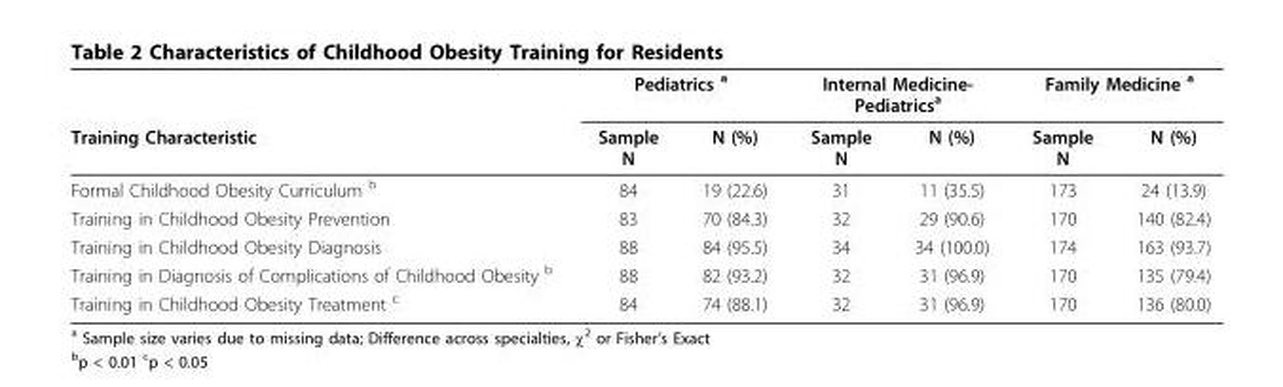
<table><thead><tr><td rowspan="2">Training Characteristic</td><td colspan="2">Pediatrics <sup>a</sup></td><td colspan="2">Internal Medicine- Pediatrics<sup>a</sup></td><td colspan="2">Family Medicine <sup>a</sup></td></tr><tr><td>Sample N</td><td>N (%)</td><td>Sample N</td><td>N (%)</td><td>Sample N</td><td>N (%)</td></tr></thead><tbody><tr><td>Formal Childhood Obesity Curriculum <sup>b</sup></td><td>84</td><td>19 (22.6)</td><td>31</td><td>11 (35.5)</td><td>173</td><td>24 (13.9)</td></tr><tr><td>Training in Childhood Obesity Prevention</td><td>83</td><td>70 (84.3)</td><td>32</td><td>29 (90.6)</td><td>170</td><td>140 (82.4)</td></tr><tr><td>Training in Childhood Obesity Diagnosis</td><td>88</td><td>84 (95.5)</td><td>34</td><td>34 (100.0)</td><td>174</td><td>163 (93.7)</td></tr><tr><td>Training in Diagnosis of Complications of Childhood Obesity <sup>b</sup></td><td>88</td><td>82 (93.2)</td><td>32</td><td>31 (96.9)</td><td>170</td><td>135 (79.4)</td></tr><tr><td>Training in Childhood Obesity Treatment <sup>c</sup></td><td>84</td><td>74 (88.1)</td><td>32</td><td>31 (96.9)</td><td>170</td><td>136 (80.0)</td></tr></tbody></table>